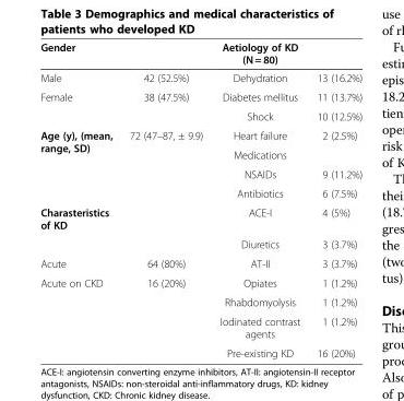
<table><thead><tr><td>Gender</td><td></td><td>Aetiology of KD (N = 80)</td><td></td></tr></thead><tbody><tr><td>Male</td><td>42 (52.5%)</td><td>Dehydration</td><td>13 (16.2%)</td></tr><tr><td rowspan="2">Female</td><td>38 (47.5%)</td><td>Diabetes mellitus</td><td>11 (13.7%)</td></tr><tr><td></td><td>Shock</td><td>10 (12.5%)</td></tr><tr><td rowspan="4">Age (y), (mean, range, SD)</td><td rowspan="2">72 (47–87, ± 9.9)</td><td>Heart failure</td><td>2 (2.5%)</td></tr><tr><td>Medications</td><td></td></tr><tr><td></td><td>NSAIDs</td><td>9 (11.2%)</td></tr><tr><td></td><td>Antibiotics</td><td>6 (7.5%)</td></tr><tr><td rowspan="2">Charasteristics of KD</td><td></td><td>ACE-I</td><td>4 (5%)</td></tr><tr><td></td><td>Diuretics</td><td>3 (3.7%)</td></tr><tr><td>Acute</td><td>64 (80%)</td><td>AT-II</td><td>3 (3.7%)</td></tr><tr><td rowspan="4">Acute on CKD</td><td>16 (20%)</td><td>Opiates</td><td>1 (1.2%)</td></tr><tr><td></td><td>Rhabdomyolysis</td><td>1 (1.2%)</td></tr><tr><td></td><td>Iodinated contrast agents</td><td>1 (1.2%)</td></tr><tr><td></td><td>Pre-existing KD</td><td>16 (20%)</td></tr></tbody></table>